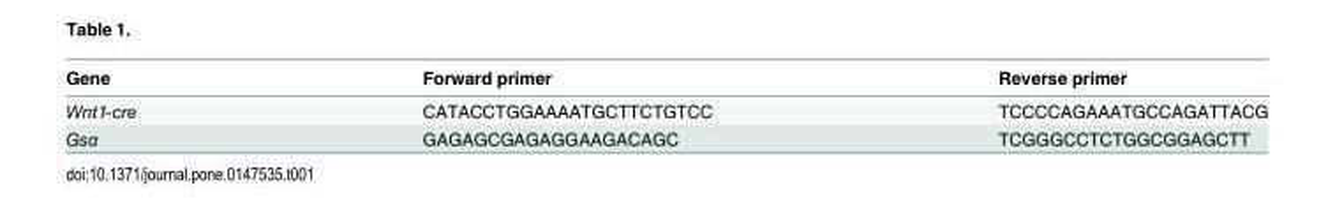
<table><thead><tr><td>Gene</td><td>Forward primer</td><td>Reverse primer</td></tr></thead><tbody><tr><td>Wnt1-cre</td><td>CATACCTGGAAAATGCTTCTGTCC</td><td>TCCCCAGAAATGCCAGATTACG</td></tr><tr><td>Gsα</td><td>GAGAGCGAGAGGAAGACAGC</td><td>TCGGGCCTCTGGCGGAGCTT</td></tr></tbody></table>